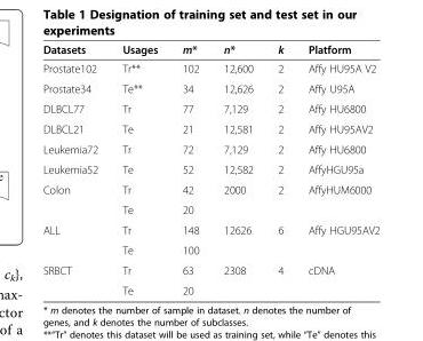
<table><thead><tr><td>Datasets</td><td>Usages</td><td>m*</td><td>n*</td><td>k</td><td>Platform</td></tr></thead><tbody><tr><td>Prostate102</td><td>Tr**</td><td>102</td><td>12,600</td><td>2</td><td>Affy HU95A V2</td></tr><tr><td>Prostate34</td><td>Te**</td><td>34</td><td>12,626</td><td>2</td><td>Affy U95A</td></tr><tr><td>DLBCL77</td><td>Tr</td><td>77</td><td>7,129</td><td>2</td><td>Affy HU6800</td></tr><tr><td>DLBCL21</td><td>Te</td><td>21</td><td>12,581</td><td>2</td><td>Affy HU95AV2</td></tr><tr><td>Leukemia72</td><td>Tr</td><td>72</td><td>7,129</td><td>2</td><td>Affy HU6800</td></tr><tr><td>Leukemia52</td><td>Te</td><td>52</td><td>12,582</td><td>2</td><td>AffyHGU95a</td></tr><tr><td rowspan="2">Colon</td><td>Tr</td><td>42</td><td rowspan="2">2000</td><td rowspan="2">2</td><td rowspan="2">AffyHUM6000</td></tr><tr><td>Te</td><td>20</td></tr><tr><td rowspan="2">ALL</td><td>Tr</td><td>148</td><td rowspan="2">12626</td><td rowspan="2">6</td><td rowspan="2">Affy HGU95AV2</td></tr><tr><td>Te</td><td>100</td></tr><tr><td rowspan="2">SRBCT</td><td>Tr</td><td>63</td><td>2308</td><td>4</td><td>cDNA</td></tr><tr><td>Te</td><td>20</td><td></td><td></td><td></td></tr></tbody></table>